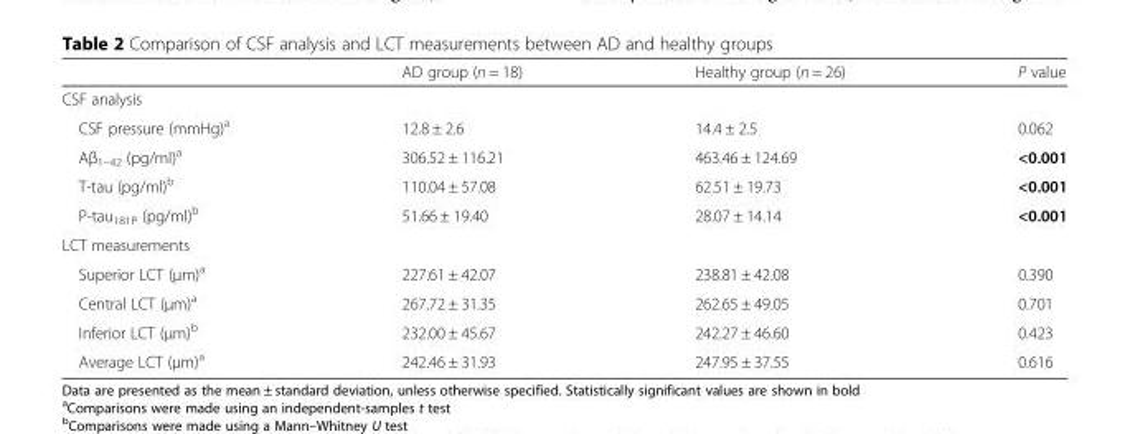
<table><thead><tr><td></td><td>AD group (n = 18)</td><td>Healthy group (n = 26)</td><td>P value</td></tr></thead><tbody><tr><td colspan="4">CSF analysis</td></tr><tr><td>CSF pressure (mmHg)<sup>a</sup></td><td>12.8 ± 2.6</td><td>14.4 ± 2.5</td><td>0.062</td></tr><tr><td>Aβ<sub>1–42</sub> (pg/ml)<sup>a</sup></td><td>306.52 ± 116.21</td><td>463.46 ± 124.69</td><td>&lt;0.001</td></tr><tr><td>T-tau (pg/ml)<sup>b</sup></td><td>110.04 ± 57.08</td><td>62.51 ± 19.73</td><td>&lt;0.001</td></tr><tr><td>P-tau<sub>181P</sub> (pg/ml)<sup>b</sup></td><td>51.66 ± 19.40</td><td>28.07 ± 14.14</td><td>&lt;0.001</td></tr><tr><td colspan="4">LCT measurements</td></tr><tr><td>Superior LCT (μm)<sup>a</sup></td><td>227.61 ± 42.07</td><td>238.81 ± 42.08</td><td>0.390</td></tr><tr><td>Central LCT (μm)<sup>a</sup></td><td>267.72 ± 31.35</td><td>262.65 ± 49.05</td><td>0.701</td></tr><tr><td>Inferior LCT (μm)<sup>b</sup></td><td>232.00 ± 45.67</td><td>242.27 ± 46.60</td><td>0.423</td></tr><tr><td>Average LCT (μm)<sup>a</sup></td><td>242.46 ± 31.93</td><td>247.95 ± 37.55</td><td>0.616</td></tr></tbody></table>